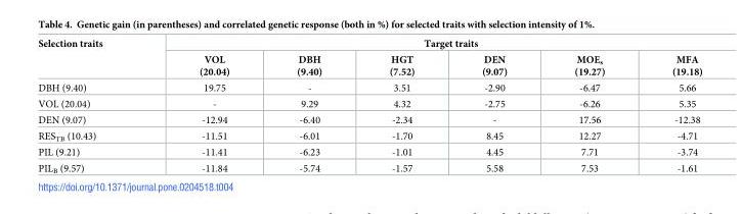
<table><thead><tr><td rowspan="2">Selection traits</td><td colspan="6">Target traits</td></tr><tr><td>VOL (20.04)</td><td>DBH (9.40)</td><td>HGT (7.52)</td><td>DEN (9.07)</td><td>MOE<sub>s</sub> (19.27)</td><td>MFA (19.18)</td></tr></thead><tbody><tr><td>DBH (9.40)</td><td>19.75</td><td>-</td><td>3.51</td><td>-2.90</td><td>-6.47</td><td>5.66</td></tr><tr><td>VOL (20.04)</td><td>-</td><td>9.29</td><td>4.32</td><td>-2.75</td><td>-6.26</td><td>5.35</td></tr><tr><td>DEN (9.07)</td><td>-12.94</td><td>-6.40</td><td>-2.34</td><td>-</td><td>17.56</td><td>-12.38</td></tr><tr><td>RES<sub>TB</sub> (10.43)</td><td>-11.51</td><td>-6.01</td><td>-1.70</td><td>8.45</td><td>12.27</td><td>-4.71</td></tr><tr><td>PIL (9.21)</td><td>-11.41</td><td>-6.23</td><td>-1.01</td><td>4.45</td><td>7.71</td><td>-3.74</td></tr><tr><td>PIL<sub>B</sub> (9.57)</td><td>-11.84</td><td>-5.74</td><td>-1.57</td><td>5.58</td><td>7.53</td><td>-1.61</td></tr></tbody></table>